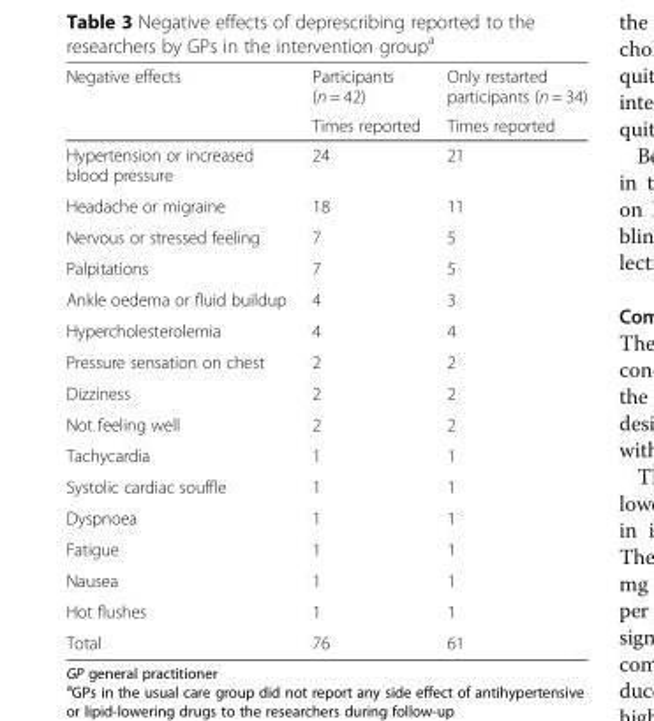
<table><thead><tr><td rowspan="2">Negative effects</td><td rowspan="2">Participants (n = 42) Times reported</td><td rowspan="2">Only restarted participants (n = 34) Times reported</td></tr><tr></tr></thead><tbody><tr><td>Hypertension or increased blood pressure</td><td>24</td><td>21</td></tr><tr><td>Headache or migraine</td><td>18</td><td>11</td></tr><tr><td>Nervous or stressed feeling</td><td>7</td><td>5</td></tr><tr><td>Palpitations</td><td>7</td><td>5</td></tr><tr><td>Ankle oedema or fluid buildup</td><td>4</td><td>3</td></tr><tr><td>Hypercholesterolemia</td><td>4</td><td>4</td></tr><tr><td>Pressure sensation on chest</td><td>2</td><td>2</td></tr><tr><td>Dizziness</td><td>2</td><td>2</td></tr><tr><td>Not feeling well</td><td>2</td><td>2</td></tr><tr><td>Tachycardia</td><td>1</td><td>1</td></tr><tr><td>Systolic cardiac souffle</td><td>1</td><td>1</td></tr><tr><td>Dyspnoea</td><td>1</td><td>1</td></tr><tr><td>Fatigue</td><td>1</td><td>1</td></tr><tr><td>Nausea</td><td>1</td><td>1</td></tr><tr><td>Hot flushes</td><td>1</td><td>1</td></tr><tr><td>Total</td><td>76</td><td>61</td></tr></tbody></table>